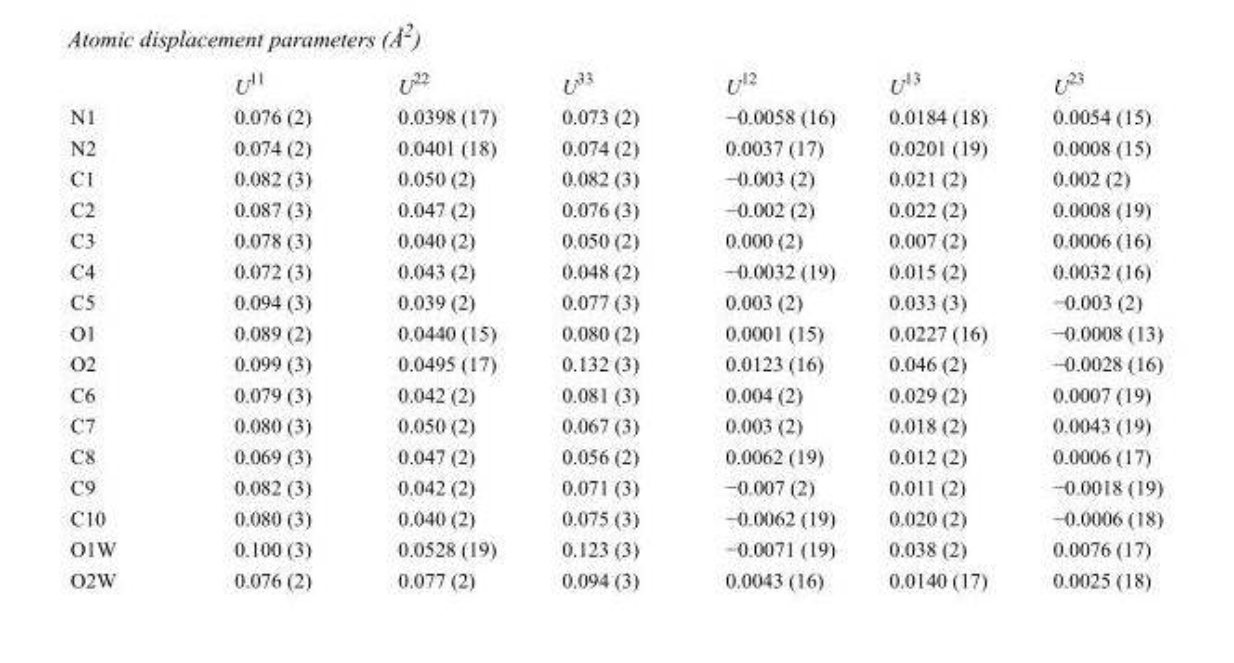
<table><thead><tr><td></td><td>U<sup>11</sup></td><td>U<sup>22</sup></td><td>U<sup>33</sup></td><td>U<sup>12</sup></td><td>U<sup>13</sup></td><td>U<sup>23</sup></td></tr></thead><tbody><tr><td>N1</td><td>0.076 (2)</td><td>0.0398 (17)</td><td>0.073 (2)</td><td>−0.0058 (16)</td><td>0.0184 (18)</td><td>0.0054 (15)</td></tr><tr><td>N2</td><td>0.074 (2)</td><td>0.0401 (18)</td><td>0.074 (2)</td><td>0.0037 (17)</td><td>0.0201 (19)</td><td>0.0008 (15)</td></tr><tr><td>C1</td><td>0.082 (3)</td><td>0.050 (2)</td><td>0.082 (3)</td><td>−0.003 (2)</td><td>0.021 (2)</td><td>0.002 (2)</td></tr><tr><td>C2</td><td>0.087 (3)</td><td>0.047 (2)</td><td>0.076 (3)</td><td>−0.002 (2)</td><td>0.022 (2)</td><td>0.0008 (19)</td></tr><tr><td>C3</td><td>0.078 (3)</td><td>0.040 (2)</td><td>0.050 (2)</td><td>0.000 (2)</td><td>0.007 (2)</td><td>0.0006 (16)</td></tr><tr><td>C4</td><td>0.072 (3)</td><td>0.043 (2)</td><td>0.048 (2)</td><td>−0.0032 (19)</td><td>0.015 (2)</td><td>0.0032 (16)</td></tr><tr><td>C5</td><td>0.094 (3)</td><td>0.039 (2)</td><td>0.077 (3)</td><td>0.003 (2)</td><td>0.033 (3)</td><td>−0.003 (2)</td></tr><tr><td>O1</td><td>0.089 (2)</td><td>0.0440 (15)</td><td>0.080 (2)</td><td>0.0001 (15)</td><td>0.0227 (16)</td><td>−0.0008 (13)</td></tr><tr><td>O2</td><td>0.099 (3)</td><td>0.0495 (17)</td><td>0.132 (3)</td><td>0.0123 (16)</td><td>0.046 (2)</td><td>−0.0028 (16)</td></tr><tr><td>C6</td><td>0.079 (3)</td><td>0.042 (2)</td><td>0.081 (3)</td><td>0.004 (2)</td><td>0.029 (2)</td><td>0.0007 (19)</td></tr><tr><td>C7</td><td>0.080 (3)</td><td>0.050 (2)</td><td>0.067 (3)</td><td>0.003 (2)</td><td>0.018 (2)</td><td>0.0043 (19)</td></tr><tr><td>C8</td><td>0.069 (3)</td><td>0.047 (2)</td><td>0.056 (2)</td><td>0.0062 (19)</td><td>0.012 (2)</td><td>0.0006 (17)</td></tr><tr><td>C9</td><td>0.082 (3)</td><td>0.042 (2)</td><td>0.071 (3)</td><td>−0.007 (2)</td><td>0.011 (2)</td><td>−0.0018 (19)</td></tr><tr><td>C10</td><td>0.080 (3)</td><td>0.040 (2)</td><td>0.075 (3)</td><td>−0.0062 (19)</td><td>0.020 (2)</td><td>−0.0006 (18)</td></tr><tr><td>O1W</td><td>0.100 (3)</td><td>0.0528 (19)</td><td>0.123 (3)</td><td>−0.0071 (19)</td><td>0.038 (2)</td><td>0.0076 (17)</td></tr><tr><td>O2W</td><td>0.076 (2)</td><td>0.077 (2)</td><td>0.094 (3)</td><td>0.0043 (16)</td><td>0.0140 (17)</td><td>0.0025 (18)</td></tr></tbody></table>